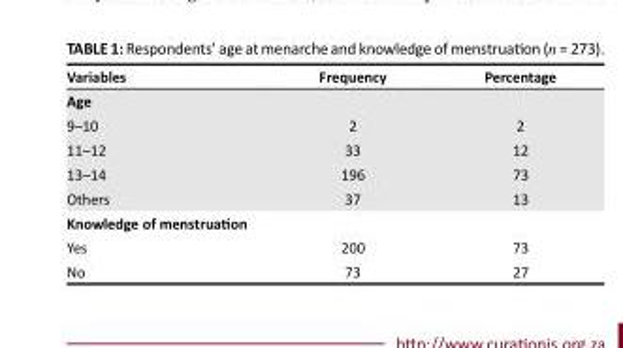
<table><thead><tr><td>Variables</td><td>Frequency</td><td>Percentage</td></tr></thead><tbody><tr><td colspan="3">Age</td></tr><tr><td>9–10</td><td>2</td><td>2</td></tr><tr><td>11–12</td><td>33</td><td>12</td></tr><tr><td>13–14</td><td>196</td><td>73</td></tr><tr><td>Others</td><td>37</td><td>13</td></tr><tr><td colspan="3">Knowledge of menstruation</td></tr><tr><td>Yes</td><td>200</td><td>73</td></tr><tr><td>No</td><td>73</td><td>27</td></tr></tbody></table>